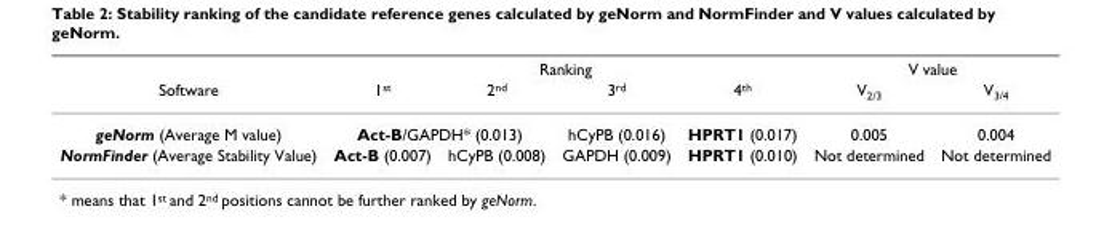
<table><thead><tr><td rowspan="2">Software</td><td colspan="4">Ranking</td><td colspan="2">V value</td></tr><tr><td>1<sup>st</sup></td><td>2<sup>nd</sup></td><td>3<sup>rd</sup></td><td>4<sup>th</sup></td><td>V<sub>2/3</sub></td><td>V<sub>3/4</sub></td></tr></thead><tbody><tr><td>geNorm (Average M value)</td><td colspan="2">Act-B/GAPDH* (0.013)</td><td>hCyPB (0.016)</td><td>HPRT1 (0.017)</td><td>0.005</td><td>0.004</td></tr><tr><td>NormFinder (Average Stability Value)</td><td>Act-B (0.007)</td><td>hCyPB (0.008)</td><td>GAPDH (0.009)</td><td>HPRT1 (0.010)</td><td>Not determined</td><td>Not determined</td></tr></tbody></table>